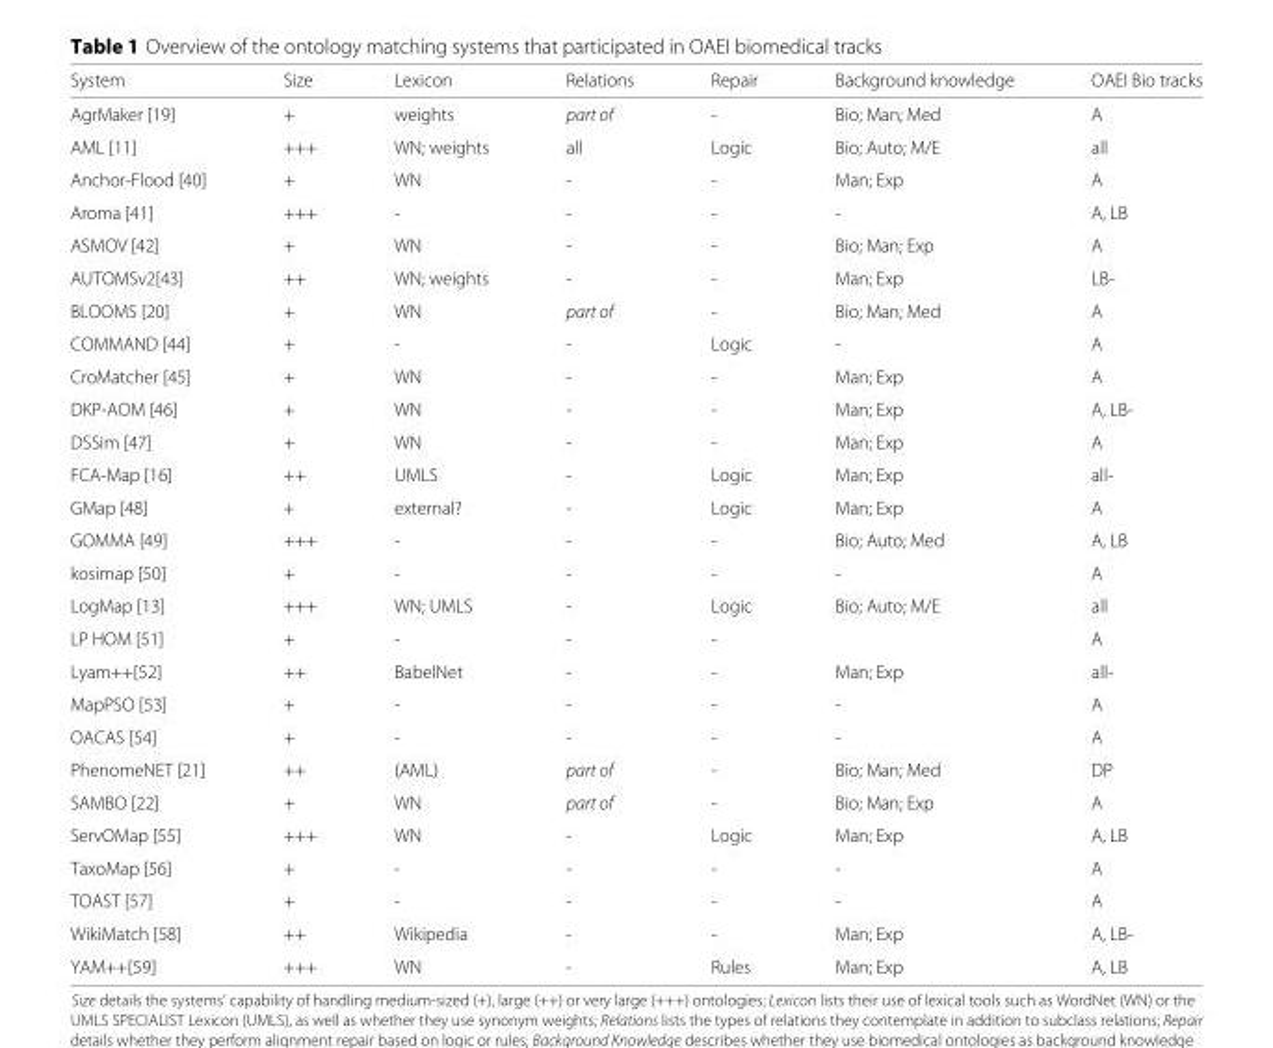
<table><thead><tr><td>System</td><td>Size</td><td>Lexicon</td><td>Relations</td><td>Repair</td><td>Background knowledge</td><td>OAEI Bio tracks</td></tr></thead><tbody><tr><td>AgrMaker [19]</td><td>+</td><td>weights</td><td>part of</td><td>-</td><td>Bio; Man; Med</td><td>A</td></tr><tr><td>AML [11]</td><td>+++</td><td>WN; weights</td><td>all</td><td>Logic</td><td>Bio; Auto; M/E</td><td>all</td></tr><tr><td>Anchor-Flood [40]</td><td>+</td><td>WN</td><td>-</td><td>-</td><td>Man; Exp</td><td>A</td></tr><tr><td>Aroma [41]</td><td>+++</td><td>-</td><td>-</td><td>-</td><td>-</td><td>A, LB</td></tr><tr><td>ASMOV [42]</td><td>+</td><td>WN</td><td>-</td><td>-</td><td>Bio; Man; Exp</td><td>A</td></tr><tr><td>AUTOMSv2[43]</td><td>++</td><td>WN; weights</td><td>-</td><td>-</td><td>Man; Exp</td><td>LB-</td></tr><tr><td>BLOOMS [20]</td><td>+</td><td>WN</td><td>part of</td><td>-</td><td>Bio; Man; Med</td><td>A</td></tr><tr><td>COMMAND [44]</td><td>+</td><td>-</td><td>-</td><td>Logic</td><td>-</td><td>A</td></tr><tr><td>CroMatcher [45]</td><td>+</td><td>WN</td><td>-</td><td>-</td><td>Man; Exp</td><td>A</td></tr><tr><td>DKP-AOM [46]</td><td>+</td><td>WN</td><td>-</td><td>-</td><td>Man; Exp</td><td>A, LB-</td></tr><tr><td>DSSim [47]</td><td>+</td><td>WN</td><td>-</td><td>-</td><td>Man; Exp</td><td>A</td></tr><tr><td>FCA-Map [16]</td><td>++</td><td>UMLS</td><td>-</td><td>Logic</td><td>Man; Exp</td><td>all-</td></tr><tr><td>GMap [48]</td><td>+</td><td>external?</td><td>-</td><td>Logic</td><td>Man; Exp</td><td>A</td></tr><tr><td>GOMMA [49]</td><td>+++</td><td>-</td><td>-</td><td>-</td><td>Bio; Auto; Med</td><td>A, LB</td></tr><tr><td>kosimap [50]</td><td>+</td><td>-</td><td>-</td><td>-</td><td>-</td><td>A</td></tr><tr><td>LogMap [13]</td><td>+++</td><td>WN; UMLS</td><td>-</td><td>Logic</td><td>Bio; Auto; M/E</td><td>all</td></tr><tr><td>LP HOM [51]</td><td>+</td><td>-</td><td>-</td><td>-</td><td></td><td>A</td></tr><tr><td>Lyam++[52]</td><td>++</td><td>BabelNet</td><td>-</td><td>-</td><td>Man; Exp</td><td>all-</td></tr><tr><td>MapPSO [53]</td><td>+</td><td>-</td><td>-</td><td>-</td><td>-</td><td>A</td></tr><tr><td>OACAS [54]</td><td>+</td><td>-</td><td>-</td><td>-</td><td>-</td><td>A</td></tr><tr><td>PhenomeNET [21]</td><td>++</td><td>(AML)</td><td>part of</td><td>-</td><td>Bio; Man; Med</td><td>DP</td></tr><tr><td>SAMBO [22]</td><td>+</td><td>WN</td><td>part of</td><td>-</td><td>Bio; Man; Exp</td><td>A</td></tr><tr><td>ServOMap [55]</td><td>+++</td><td>WN</td><td>-</td><td>Logic</td><td>Man; Exp</td><td>A, LB</td></tr><tr><td>TaxoMap [56]</td><td>+</td><td>-</td><td>-</td><td>-</td><td>-</td><td>A</td></tr><tr><td>TOAST [57]</td><td>+</td><td>-</td><td>-</td><td>-</td><td>-</td><td>A</td></tr><tr><td>WikiMatch [58]</td><td>++</td><td>Wikipedia</td><td>-</td><td>-</td><td>Man; Exp</td><td>A, LB-</td></tr><tr><td>YAM++[59]</td><td>+++</td><td>WN</td><td>-</td><td>Rules</td><td>Man; Exp</td><td>A, LB</td></tr></tbody></table>